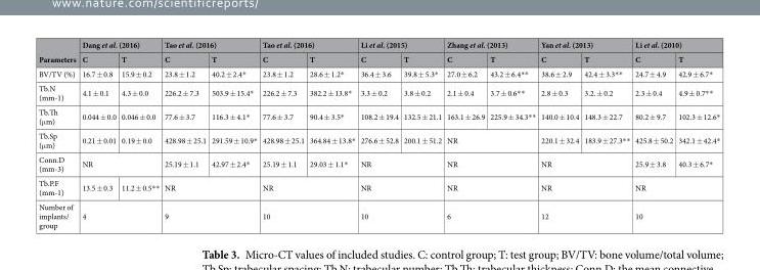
<table><thead><tr><td rowspan="2">Parameters</td><td colspan="2">Dang et al. (2016)</td><td colspan="2">Tao et al. (2016)</td><td colspan="2">Tao et al. (2016)</td><td colspan="2">Li et al. (2015)</td><td colspan="2">Zhang et al. (2013)</td><td colspan="2">Yan et al. (2013)</td><td colspan="2">Li et al. (2010)</td></tr><tr><td>C</td><td>T</td><td>C</td><td>T</td><td>C</td><td>T</td><td>C</td><td>T</td><td>C</td><td>T</td><td>C</td><td>T</td><td>C</td><td>T</td></tr></thead><tbody><tr><td>BV/TV (%)</td><td>16.7 ± 0.8</td><td>15.9 ± 0.2</td><td>23.8 ± 1.2</td><td>40.2 ± 2.4*</td><td>23.8 ± 1.2</td><td>28.6 ± 1.2*</td><td>36.4 ± 3.6</td><td>39.8 ± 5.3*</td><td>27.0 ± 6.2</td><td>43.2 ± 6.4**</td><td>38.6 ± 2.9</td><td>42.4 ± 3.3**</td><td>24.7 ± 4.9</td><td>42.9 ± 6.7*</td></tr><tr><td>Tb.N (mm-1)</td><td>4.1 ± 0.1</td><td>4.3 ± 0.0</td><td>226.2 ± 7.3</td><td>503.9 ± 15.4*</td><td>226.2 ± 7.3</td><td>382.2 ± 13.8*</td><td>3.3 ± 0.2</td><td>3.8 ± 0.2</td><td>2.1 ± 0.4</td><td>3.7 ± 0.6**</td><td>2.8 ± 0.3</td><td>3.2. ± 0.2</td><td>2.3 ± 0.4</td><td>4.9 ± 0.7**</td></tr><tr><td>Tb.Th (μm)</td><td>0.044 ± 0.0</td><td>0.046 ± 0.0</td><td>77.6 ± 3.7</td><td>116.3 ± 4.1*</td><td>77.6 ± 3.7</td><td>90.4 ± 3.5*</td><td>108.2 ± 19.4</td><td>132.5 ± 21.1</td><td>163.1 ± 26.9</td><td>225.9 ± 34.3**</td><td>140.0 ± 10.4</td><td>148.3 ± 22.7</td><td>80.2 ± 9.7</td><td>102.3 ± 12.6*</td></tr><tr><td>Tb.Sp (μm)</td><td>0.21 ± 0.01</td><td>0.19 ± 0.0</td><td>428.98 ± 25.1</td><td>291.59 ± 10.9*</td><td>428.98 ± 25.1</td><td>364.84 ± 13.8*</td><td>276.6 ± 52.8</td><td>200.1 ± 51.2</td><td colspan="2">NR</td><td>220.1 ± 32.4</td><td>183.9 ± 27.3**</td><td>425.8 ± 50.2</td><td>342.1 ± 42.4*</td></tr><tr><td>Conn.D (mm-3)</td><td colspan="2">NR</td><td>25.19 ± 1.1</td><td>42.97 ± 2.4*</td><td>25.19 ± 1.1</td><td>29.03 ± 1.1*</td><td colspan="2">NR</td><td colspan="2">NR</td><td colspan="2">NR</td><td>25.9 ± 3.8</td><td>40.3 ± 6.7*</td></tr><tr><td>Tb.P.F (mm-1)</td><td>13.5 ± 0.3</td><td>11.2 ± 0.5**</td><td colspan="2">NR</td><td colspan="2">NR</td><td colspan="2">NR</td><td colspan="2">NR</td><td colspan="2">NR</td><td colspan="2">NR</td></tr><tr><td>Number of implants/ group</td><td colspan="2">4</td><td colspan="2">9</td><td colspan="2">10</td><td colspan="2">10</td><td colspan="2">6</td><td colspan="2">12</td><td colspan="2">10</td></tr></tbody></table>